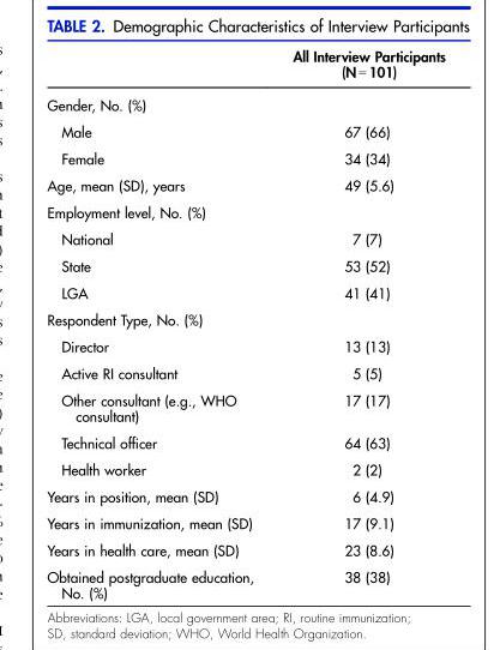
<table><thead><tr><td></td><td>All Interview Participants (N = 101)</td></tr></thead><tbody><tr><td colspan="2">Gender, No. (%)</td></tr><tr><td>Male</td><td>67 (66)</td></tr><tr><td>Female</td><td>34 (34)</td></tr><tr><td>Age, mean (SD), years</td><td>49 (5.6)</td></tr><tr><td colspan="2">Employment level, No. (%)</td></tr><tr><td>National</td><td>7 (7)</td></tr><tr><td>State</td><td>53 (52)</td></tr><tr><td>LGA</td><td>41 (41)</td></tr><tr><td colspan="2">Respondent Type, No. (%)</td></tr><tr><td>Director</td><td>13 (13)</td></tr><tr><td>Active RI consultant</td><td>5 (5)</td></tr><tr><td>Other consultant (e.g., WHO consultant)</td><td>17 (17)</td></tr><tr><td>Technical officer</td><td>64 (63)</td></tr><tr><td>Health worker</td><td>2 (2)</td></tr><tr><td>Years in position, mean (SD)</td><td>6 (4.9)</td></tr><tr><td>Years in immunization, mean (SD)</td><td>17 (9.1)</td></tr><tr><td>Years in health care, mean (SD)</td><td>23 (8.6)</td></tr><tr><td>Obtained postgraduate education, No. (%)</td><td>38 (38)</td></tr></tbody></table>